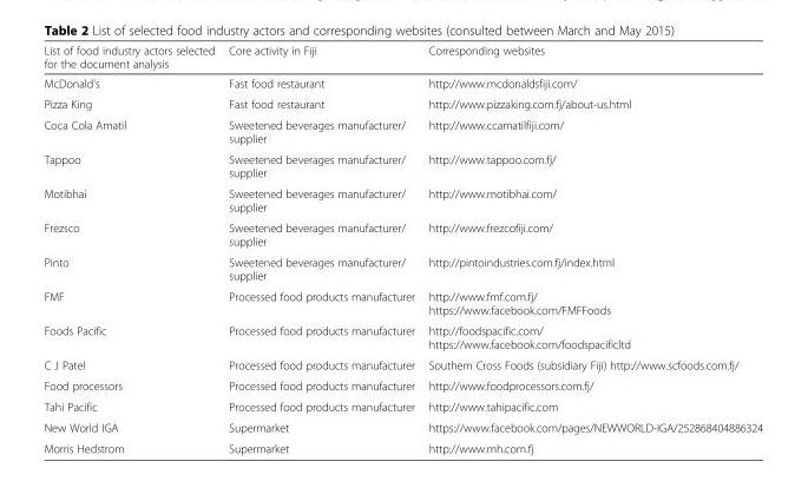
<table><thead><tr><td>List of food industry actors selected for the document analysis</td><td>Core activity in Fiji</td><td>Corresponding websites</td></tr></thead><tbody><tr><td>McDonald&#x27;s</td><td>Fast food restaurant</td><td>http://www.mcdonaldsfiji.com/</td></tr><tr><td>Pizza King</td><td>Fast food restaurant</td><td>http://www.pizzaking.com.fj/about-us.html</td></tr><tr><td>Coca Cola Amatil</td><td>Sweetened beverages manufacturer/ supplier</td><td>http://www.ccamatilfiji.com/</td></tr><tr><td>Tappoo</td><td>Sweetened beverages manufacturer/ supplier</td><td>http://www.tappoo.com.fj/</td></tr><tr><td>Motibhai</td><td>Sweetened beverages manufacturer/ supplier</td><td>http://www.motibhai.com/</td></tr><tr><td>Frezsco</td><td>Sweetened beverages manufacturer/ supplier</td><td>http://www.frezcofiji.com/</td></tr><tr><td>Pinto</td><td>Sweetened beverages manufacturer/ supplier</td><td>http://pintoindustries.com.fj/index.html</td></tr><tr><td>FMF</td><td>Processed food products manufacturer</td><td>http://www.fmf.com.fj/ https://www.facebook.com/FMFFoods</td></tr><tr><td>Foods Pacific</td><td>Processed food products manufacturer</td><td>http://foodspacific.com/ https://www.facebook.com/foodspacificltd</td></tr><tr><td>C J Patel</td><td>Processed food products manufacturer</td><td>Southern Cross Foods (subsidiary Fiji) http://www.scfoods.com.fj/</td></tr><tr><td>Food processors</td><td>Processed food products manufacturer</td><td>http://www.foodprocessors.com.fj/</td></tr><tr><td>Tahi Pacific</td><td>Processed food products manufacturer</td><td>http://www.tahipacific.com</td></tr><tr><td>New World IGA</td><td>Supermarket</td><td>https://www.facebook.com/pages/NEWWORLD-IGA/252868404886324</td></tr><tr><td>Morris Hedstrom</td><td>Supermarket</td><td>http://www.mh.com.fj</td></tr></tbody></table>